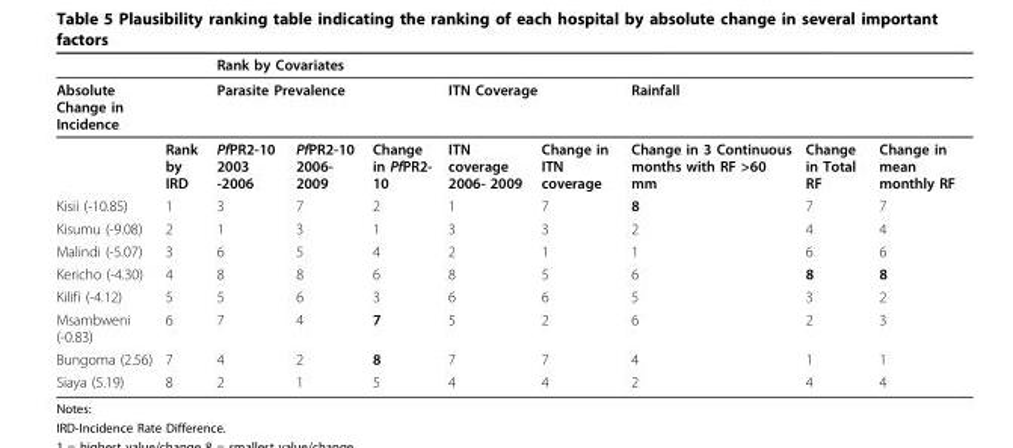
<table><thead><tr><td rowspan="3">Absolute Change in Incidence</td><td rowspan="3">Rank by IRD</td><td rowspan="2" colspan="2">Rank by Covariates Parasite Prevalence</td><td rowspan="3">Change in PfPR2- 10</td><td></td><td></td><td></td><td></td><td></td></tr><tr><td colspan="2">ITN Coverage</td><td colspan="3">Rainfall</td></tr><tr><td>PfPR2-10 2003 -2006</td><td>PfPR2-10 2006- 2009</td><td>ITN coverage 2006- 2009</td><td>Change in ITN coverage</td><td>Change in 3 Continuous months with RF &gt;60 mm</td><td>Change in Total RF</td><td>Change in mean monthly RF</td></tr></thead><tbody><tr><td>Kisii (-10.85)</td><td>1</td><td>3</td><td>7</td><td>2</td><td>1</td><td>7</td><td>8</td><td>7</td><td>7</td></tr><tr><td>Kisumu (-9.08)</td><td>2</td><td>1</td><td>3</td><td>1</td><td>3</td><td>3</td><td>2</td><td>4</td><td>4</td></tr><tr><td>Malindi (-5.07)</td><td>3</td><td>6</td><td>5</td><td>4</td><td>2</td><td>1</td><td>1</td><td>6</td><td>6</td></tr><tr><td>Kericho (-4.30)</td><td>4</td><td>8</td><td>8</td><td>6</td><td>8</td><td>5</td><td>6</td><td>8</td><td>8</td></tr><tr><td>Kilifi (-4.12)</td><td>5</td><td>5</td><td>6</td><td>3</td><td>6</td><td>6</td><td>5</td><td>3</td><td>2</td></tr><tr><td>Msambweni (-0.83)</td><td>6</td><td>7</td><td>4</td><td>7</td><td>5</td><td>2</td><td>6</td><td>2</td><td>3</td></tr><tr><td>Bungoma (2.56)</td><td>7</td><td>4</td><td>2</td><td>8</td><td>7</td><td>7</td><td>4</td><td>1</td><td>1</td></tr><tr><td>Siaya (5.19)</td><td>8</td><td>2</td><td>1</td><td>5</td><td>4</td><td>4</td><td>2</td><td>4</td><td>4</td></tr></tbody></table>